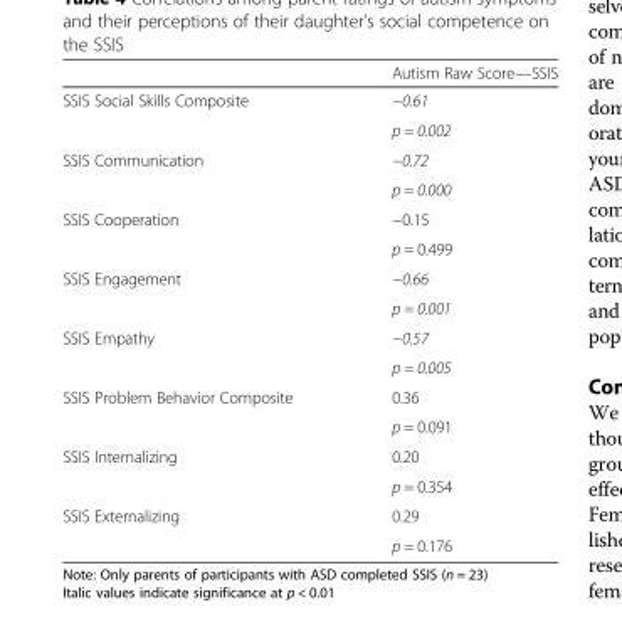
<table><thead><tr><td></td><td>Autism Raw Score—SSIS</td></tr></thead><tbody><tr><td rowspan="2">SSIS Social Skills Composite</td><td>−0.61</td></tr><tr><td>p = 0.002</td></tr><tr><td rowspan="2">SSIS Communication</td><td>−0.72</td></tr><tr><td>p = 0.000</td></tr><tr><td rowspan="2">SSIS Cooperation</td><td>−0.15</td></tr><tr><td>p = 0.499</td></tr><tr><td rowspan="2">SSIS Engagement</td><td>−0.66</td></tr><tr><td>p = 0.001</td></tr><tr><td rowspan="2">SSIS Empathy</td><td>−0.57</td></tr><tr><td>p = 0.005</td></tr><tr><td rowspan="2">SSIS Problem Behavior Composite</td><td>0.36</td></tr><tr><td>p = 0.091</td></tr><tr><td rowspan="2">SSIS Internalizing</td><td>0.20</td></tr><tr><td>p = 0.354</td></tr><tr><td rowspan="2">SSIS Externalizing</td><td>0.29</td></tr><tr><td>p = 0.176</td></tr></tbody></table>